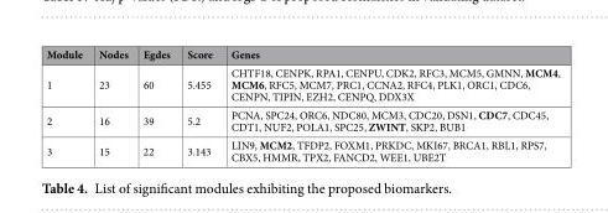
<table><thead><tr><td>Module</td><td>Nodes</td><td>Egdes</td><td>Score</td><td>Genes</td></tr></thead><tbody><tr><td>1</td><td>23</td><td>60</td><td>5.455</td><td>CHTF18, CENPK, RPA1, CENPU, CDK2, RFC3, MCM5, GMNN, MCM4, MCM6, RFC5, MCM7, PRC1, CCNA2, RFC4, PLK1, ORC1, CDC6, CENPN, TIPIN, EZH2, CENPQ, DDX3X</td></tr><tr><td>2</td><td>16</td><td>39</td><td>5.2</td><td>PCNA, SPC24, ORC6, NDC80, MCM3, CDC20, DSN1, CDC7, CDC45, CDT1, NUF2, POLA1, SPC25, ZWINT, SKP2, BUB1</td></tr><tr><td>3</td><td>15</td><td>22</td><td>3.143</td><td>LIN9, MCM2, TFDP2, FOXM1, PRKDC, MKI67, BRCA1, RBL1, RPS7, CBX5, HMMR, TPX2, FANCD2, WEE1, UBE2T</td></tr></tbody></table>